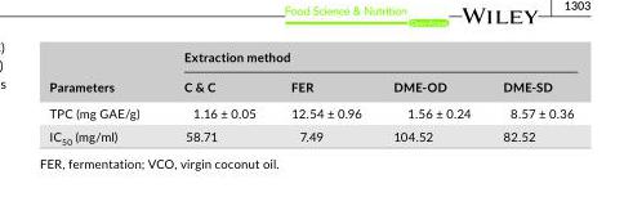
<table><thead><tr><td rowspan="2">Parameters</td><td colspan="4">Extraction method</td></tr><tr><td>C &amp; C</td><td>FER</td><td>DME- OD</td><td>DME- SD</td></tr></thead><tbody><tr><td>TPC (mg GAE/g)</td><td>1.16 ± 0.05</td><td>12.54 ± 0.96</td><td>1.56 ± 0.24</td><td>8.57 ± 0.36</td></tr><tr><td>IC<sub>50</sub> (mg/ml)</td><td>58.71</td><td>7.49</td><td>104.52</td><td>82.52</td></tr></tbody></table>